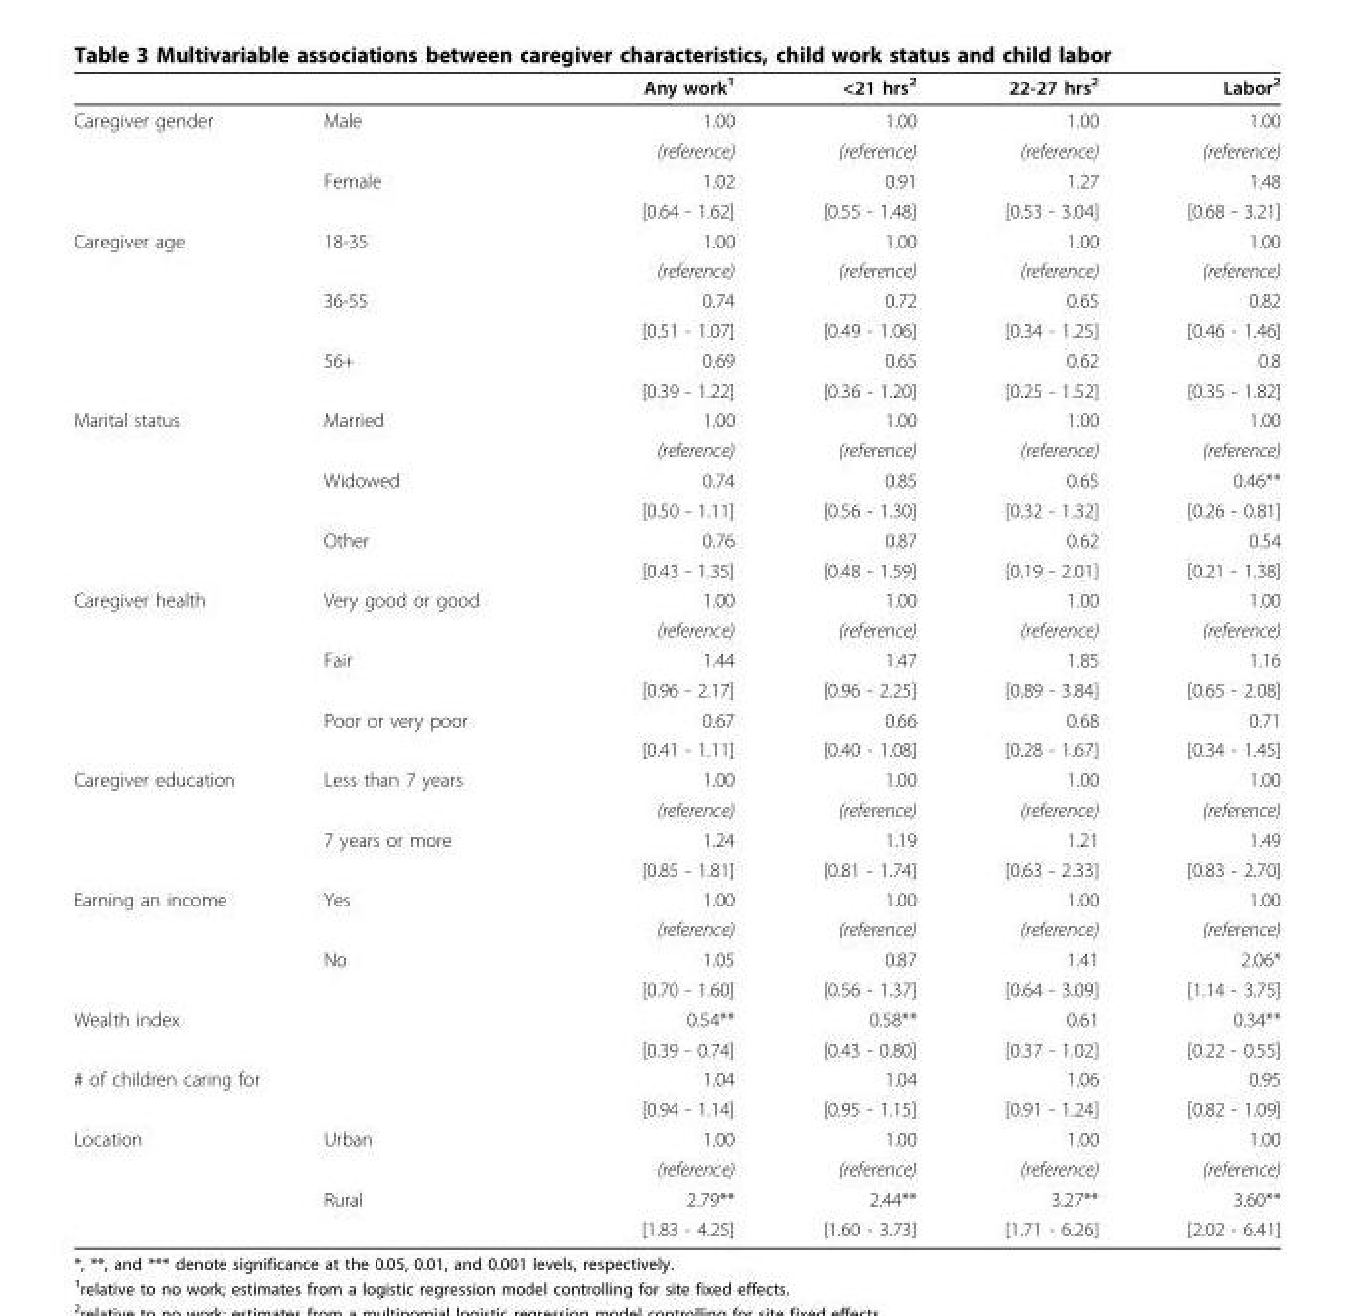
<table><thead><tr><td></td><td></td><td>Any work<sup>1</sup></td><td>&lt;21 hrs<sup>2</sup></td><td>22-27 hrs<sup>2</sup></td><td>Labor<sup>2</sup></td></tr></thead><tbody><tr><td rowspan="4">Caregiver gender</td><td>Male</td><td>1.00</td><td>1.00</td><td>1.00</td><td>1.00</td></tr><tr><td></td><td>(reference)</td><td>(reference)</td><td>(reference)</td><td>(reference)</td></tr><tr><td>Female</td><td>1.02</td><td>0.91</td><td>1.27</td><td>1.48</td></tr><tr><td></td><td>[0.64 - 1.62]</td><td>[0.55 - 1.48]</td><td>[0.53 - 3.04]</td><td>[0.68 - 3.21]</td></tr><tr><td rowspan="6">Caregiver age</td><td>18-35</td><td>1.00</td><td>1.00</td><td>1.00</td><td>1.00</td></tr><tr><td></td><td>(reference)</td><td>(reference)</td><td>(reference)</td><td>(reference)</td></tr><tr><td>36-55</td><td>0.74</td><td>0.72</td><td>0.65</td><td>0.82</td></tr><tr><td></td><td>[0.51 - 1.07]</td><td>[0.49 - 1.06]</td><td>[0.34 - 1.25]</td><td>[0.46 - 1.46]</td></tr><tr><td>56+</td><td>0.69</td><td>0.65</td><td>0.62</td><td>0.8</td></tr><tr><td></td><td>[0.39 - 1.22]</td><td>[0.36 - 1.20]</td><td>[0.25 - 1.52]</td><td>[0.35 - 1.82]</td></tr><tr><td rowspan="6">Marital status</td><td>Married</td><td>1.00</td><td>1.00</td><td>1.00</td><td>1.00</td></tr><tr><td></td><td>(reference)</td><td>(reference)</td><td>(reference)</td><td>(reference)</td></tr><tr><td>Widowed</td><td>0.74</td><td>0.85</td><td>0.65</td><td>0.46**</td></tr><tr><td></td><td>[0.50 - 1.11]</td><td>[0.56 - 1.30]</td><td>[0.32 - 1.32]</td><td>[0.26 - 0.81]</td></tr><tr><td>Other</td><td>0.76</td><td>0.87</td><td>0.62</td><td>0.54</td></tr><tr><td></td><td>[0.43 - 1.35]</td><td>[0.48 - 1.59]</td><td>[0.19 - 2.01]</td><td>[0.21 - 1.38]</td></tr><tr><td rowspan="6">Caregiver health</td><td>Very good or good</td><td>1.00</td><td>1.00</td><td>1.00</td><td>1.00</td></tr><tr><td></td><td>(reference)</td><td>(reference)</td><td>(reference)</td><td>(reference)</td></tr><tr><td>Fair</td><td>1.44</td><td>1.47</td><td>1.85</td><td>1.16</td></tr><tr><td></td><td>[0.96 - 2.17]</td><td>[0.96 - 2.25]</td><td>[0.89 - 3.84]</td><td>[0.65 - 2.08]</td></tr><tr><td>Poor or very poor</td><td>0.67</td><td>0.66</td><td>0.68</td><td>0.71</td></tr><tr><td></td><td>[0.41 - 1.11]</td><td>[0.40 - 1.08]</td><td>[0.28 - 1.67]</td><td>[0.34 - 1.45]</td></tr><tr><td rowspan="4">Caregiver education</td><td>Less than 7 years</td><td>1.00</td><td>1.00</td><td>1.00</td><td>1.00</td></tr><tr><td></td><td>(reference)</td><td>(reference)</td><td>(reference)</td><td>(reference)</td></tr><tr><td>7 years or more</td><td>1.24</td><td>1.19</td><td>1.21</td><td>1.49</td></tr><tr><td></td><td>[0.85 - 1.81]</td><td>[0.81 - 1.74]</td><td>[0.63 - 2.33]</td><td>[0.83 - 2.70]</td></tr><tr><td rowspan="4">Earning an income</td><td>Yes</td><td>1.00</td><td>1.00</td><td>1.00</td><td>1.00</td></tr><tr><td></td><td>(reference)</td><td>(reference)</td><td>(reference)</td><td>(reference)</td></tr><tr><td>No</td><td>1.05</td><td>0.87</td><td>1.41</td><td>2.06*</td></tr><tr><td></td><td>[0.70 - 1.60]</td><td>[0.56 - 1.37]</td><td>[0.64 - 3.09]</td><td>[1.14 - 3.75]</td></tr><tr><td rowspan="2">Wealth index</td><td></td><td>0.54**</td><td>0.58**</td><td>0.61</td><td>0.34**</td></tr><tr><td></td><td>[0.39 - 0.74]</td><td>[0.43 - 0.80]</td><td>[0.37 - 1.02]</td><td>[0.22 - 0.55]</td></tr><tr><td colspan="2"># of children caring for</td><td>1.04</td><td>1.04</td><td>1.06</td><td>0.95</td></tr><tr><td></td><td></td><td>[0.94 - 1.14]</td><td>[0.95 - 1.15]</td><td>[0.91 - 1.24]</td><td>[0.82 - 1.09]</td></tr><tr><td rowspan="4">Location</td><td>Urban</td><td>1.00</td><td>1.00</td><td>1.00</td><td>1.00</td></tr><tr><td></td><td>(reference)</td><td>(reference)</td><td>(reference)</td><td>(reference)</td></tr><tr><td>Rural</td><td>2.79**</td><td>2.44**</td><td>3.27**</td><td>3.60**</td></tr><tr><td></td><td>[1.83 - 4.25]</td><td>[1.60 - 3.73]</td><td>[1.71 - 6.26]</td><td>[2.02 - 6.41]</td></tr></tbody></table>